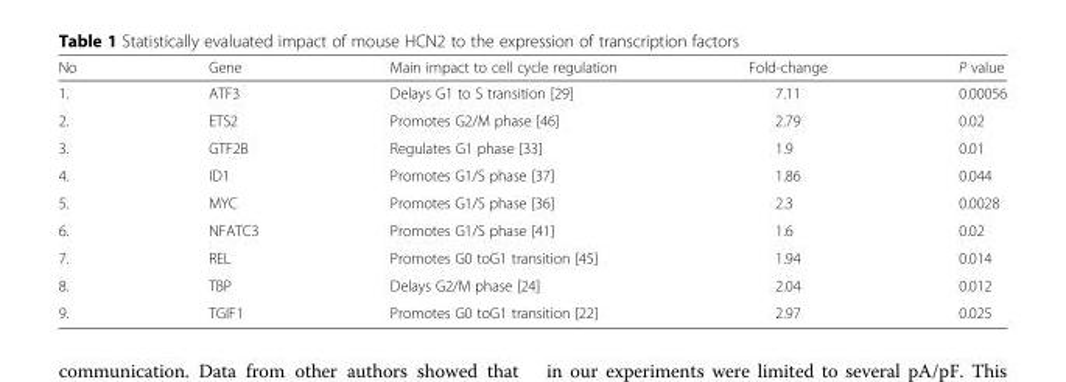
<table><thead><tr><td>No</td><td>Gene</td><td>Main impact to cell cycle regulation</td><td>Fold-change</td><td>P value</td></tr></thead><tbody><tr><td>1.</td><td>ATF3</td><td>Delays G1 to S transition [29]</td><td>7.11</td><td>0.00056</td></tr><tr><td>2.</td><td>ETS2</td><td>Promotes G2/M phase [46]</td><td>2.79</td><td>0.02</td></tr><tr><td>3.</td><td>GTF2B</td><td>Regulates G1 phase [33]</td><td>1.9</td><td>0.01</td></tr><tr><td>4.</td><td>ID1</td><td>Promotes G1/S phase [37]</td><td>1.86</td><td>0.044</td></tr><tr><td>5.</td><td>MYC</td><td>Promotes G1/S phase [36]</td><td>2.3</td><td>0.0028</td></tr><tr><td>6.</td><td>NFATC3</td><td>Promotes G1/S phase [41]</td><td>1.6</td><td>0.02</td></tr><tr><td>7.</td><td>REL</td><td>Promotes G0 toG1 transition [45]</td><td>1.94</td><td>0.014</td></tr><tr><td>8.</td><td>TBP</td><td>Delays G2/M phase [24]</td><td>2.04</td><td>0.012</td></tr><tr><td>9.</td><td>TGIF1</td><td>Promotes G0 toG1 transition [22]</td><td>2.97</td><td>0.025</td></tr></tbody></table>